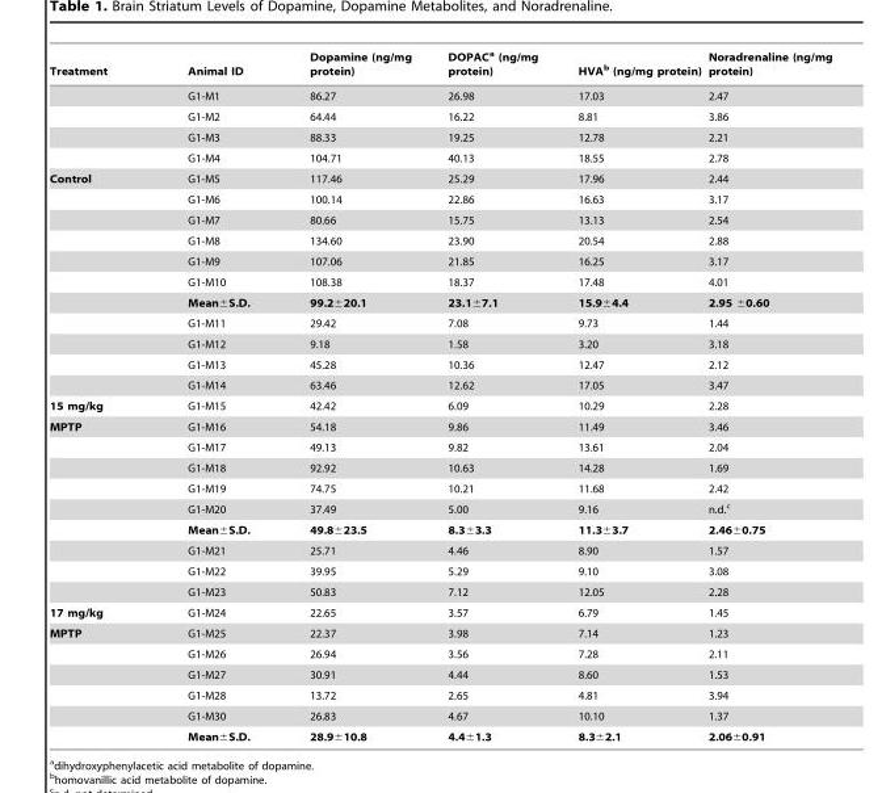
<table><thead><tr><td>Treatment</td><td>Animal ID</td><td>Dopamine (ng/mg protein)</td><td>DOPAC<sup>a</sup> (ng/mg protein)</td><td>HVA<sup>b</sup> (ng/mg protein)</td><td>Noradrenaline (ng/mg protein)</td></tr></thead><tbody><tr><td></td><td>G1-M1</td><td>86.27</td><td>26.98</td><td>17.03</td><td>2.47</td></tr><tr><td></td><td>G1-M2</td><td>64.44</td><td>16.22</td><td>8.81</td><td>3.86</td></tr><tr><td></td><td>G1-M3</td><td>88.33</td><td>19.25</td><td>12.78</td><td>2.21</td></tr><tr><td></td><td>G1-M4</td><td>104.71</td><td>40.13</td><td>18.55</td><td>2.78</td></tr><tr><td rowspan="11">Control</td><td>G1-M5</td><td>117.46</td><td>25.29</td><td>17.96</td><td>2.44</td></tr><tr><td>G1-M6</td><td>100.14</td><td>22.86</td><td>16.63</td><td>3.17</td></tr><tr><td>G1-M7</td><td>80.66</td><td>15.75</td><td>13.13</td><td>2.54</td></tr><tr><td>G1-M8</td><td>134.60</td><td>23.90</td><td>20.54</td><td>2.88</td></tr><tr><td>G1-M9</td><td>107.06</td><td>21.85</td><td>16.25</td><td>3.17</td></tr><tr><td>G1-M10</td><td>108.38</td><td>18.37</td><td>17.48</td><td>4.01</td></tr><tr><td>Mean±S.D.</td><td>99.2±20.1</td><td>23.1±7.1</td><td>15.9±4.4</td><td>2.95 ±0.60</td></tr><tr><td>G1-M11</td><td>29.42</td><td>7.08</td><td>9.73</td><td>1.44</td></tr><tr><td>G1-M12</td><td>9.18</td><td>1.58</td><td>3.20</td><td>3.18</td></tr><tr><td>G1-M13</td><td>45.28</td><td>10.36</td><td>12.47</td><td>2.12</td></tr><tr><td>G1-M14</td><td>63.46</td><td>12.62</td><td>17.05</td><td>3.47</td></tr><tr><td>15 mg/kg</td><td>G1-M15</td><td>42.42</td><td>6.09</td><td>10.29</td><td>2.28</td></tr><tr><td rowspan="9">MPTP</td><td>G1-M16</td><td>54.18</td><td>9.86</td><td>11.49</td><td>3.46</td></tr><tr><td>G1-M17</td><td>49.13</td><td>9.82</td><td>13.61</td><td>2.04</td></tr><tr><td>G1-M18</td><td>92.92</td><td>10.63</td><td>14.28</td><td>1.69</td></tr><tr><td>G1-M19</td><td>74.75</td><td>10.21</td><td>11.68</td><td>2.42</td></tr><tr><td>G1-M20</td><td>37.49</td><td>5.00</td><td>9.16</td><td>n.d.<sup>c</sup></td></tr><tr><td>Mean±S.D.</td><td>49.8±23.5</td><td>8.3±3.3</td><td>11.3±3.7</td><td>2.46±0.75</td></tr><tr><td>G1-M21</td><td>25.71</td><td>4.46</td><td>8.90</td><td>1.57</td></tr><tr><td>G1-M22</td><td>39.95</td><td>5.29</td><td>9.10</td><td>3.08</td></tr><tr><td>G1-M23</td><td>50.83</td><td>7.12</td><td>12.05</td><td>2.28</td></tr><tr><td>17 mg/kg</td><td>G1-M24</td><td>22.65</td><td>3.57</td><td>6.79</td><td>1.45</td></tr><tr><td rowspan="6">MPTP</td><td>G1-M25</td><td>22.37</td><td>3.98</td><td>7.14</td><td>1.23</td></tr><tr><td>G1-M26</td><td>26.94</td><td>3.56</td><td>7.28</td><td>2.11</td></tr><tr><td>G1-M27</td><td>30.91</td><td>4.44</td><td>8.60</td><td>1.53</td></tr><tr><td>G1-M28</td><td>13.72</td><td>2.65</td><td>4.81</td><td>3.94</td></tr><tr><td>G1-M30</td><td>26.83</td><td>4.67</td><td>10.10</td><td>1.37</td></tr><tr><td>Mean±S.D.</td><td>28.9±10.8</td><td>4.4±1.3</td><td>8.3±2.1</td><td>2.06±0.91</td></tr></tbody></table>